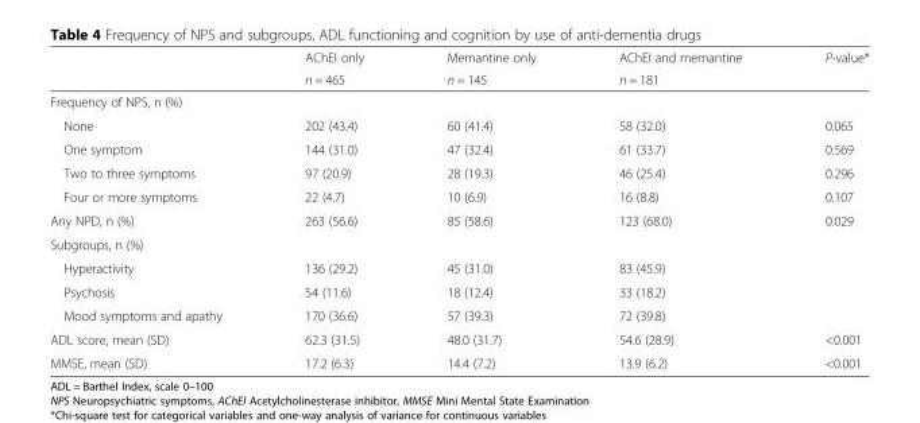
<table><thead><tr><td rowspan="2"></td><td rowspan="2">AChEI only n = 465</td><td rowspan="2">Memantine only n = 145</td><td rowspan="2">AChEI and memantine n = 181</td><td rowspan="2">P-value*</td></tr><tr></tr></thead><tbody><tr><td colspan="5">Frequency of NPS, n (%)</td></tr><tr><td>None</td><td>202 (43.4)</td><td>60 (41.4)</td><td>58 (32.0)</td><td>0.065</td></tr><tr><td>One symptom</td><td>144 (31.0)</td><td>47 (32.4)</td><td>61 (33.7)</td><td>0.569</td></tr><tr><td>Two to three symptoms</td><td>97 (20.9)</td><td>28 (19.3)</td><td>46 (25.4)</td><td>0.296</td></tr><tr><td>Four or more symptoms</td><td>22 (4.7)</td><td>10 (6.9)</td><td>16 (8.8)</td><td>0.107</td></tr><tr><td>Any NPD, n (%)</td><td>263 (56.6)</td><td>85 (58.6)</td><td>123 (68.0)</td><td>0.029</td></tr><tr><td colspan="5">Subgroups, n (%)</td></tr><tr><td>Hyperactivity</td><td>136 (29.2)</td><td>45 (31.0)</td><td>83 (45.9)</td><td></td></tr><tr><td>Psychosis</td><td>54 (11.6)</td><td>18 (12.4)</td><td>33 (18.2)</td><td></td></tr><tr><td>Mood symptoms and apathy</td><td>170 (36.6)</td><td>57 (39.3)</td><td>72 (39.8)</td><td></td></tr><tr><td>ADL score, mean (SD)</td><td>62.3 (31.5)</td><td>48.0 (31.7)</td><td>54.6 (28.9)</td><td>&lt;0.001</td></tr><tr><td>MMSE, mean (SD)</td><td>17.2 (6.3)</td><td>14.4 (7.2)</td><td>13.9 (6.2)</td><td>&lt;0.001</td></tr></tbody></table>